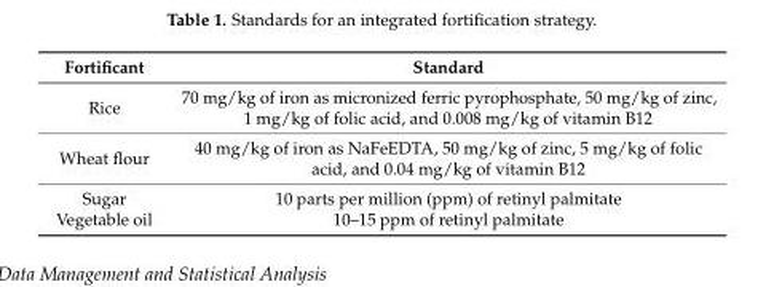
<table><thead><tr><td>Fortificant</td><td>Standard</td></tr></thead><tbody><tr><td>Rice</td><td>70 mg/kg of iron as micronized ferric pyrophosphate, 50 mg/kg of zinc, 1 mg/kg of folic acid, and 0.008 mg/kg of vitamin B12</td></tr><tr><td>Wheat flour</td><td>40 mg/kg of iron as NaFeEDTA, 50 mg/kg of zinc, 5 mg/kg of folic acid, and 0.04 mg/kg of vitamin B12</td></tr><tr><td>Sugar</td><td>10 parts per million (ppm) of retinyl palmitate</td></tr><tr><td>Vegetable oil</td><td>10–15 ppm of retinyl palmitate</td></tr></tbody></table>